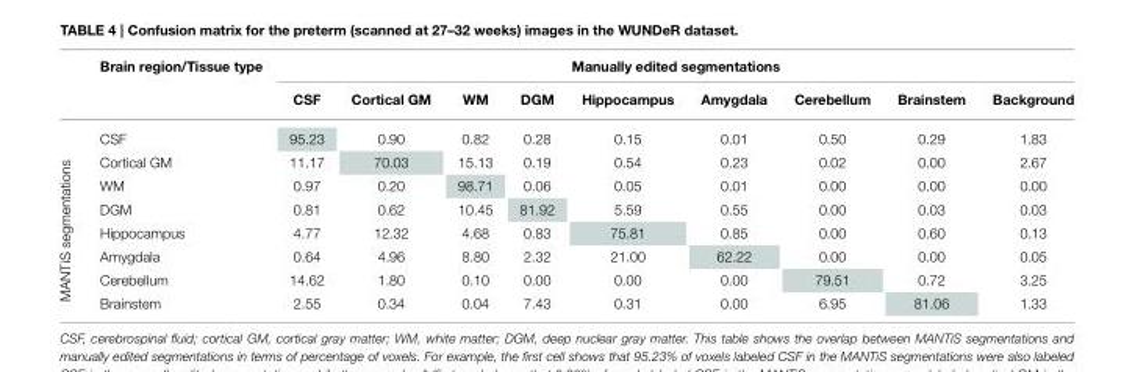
<table><thead><tr><td rowspan="2"></td><td rowspan="2">Brain region/Tissue type</td><td colspan="9">Manually edited segmentations</td></tr><tr><td>CSF</td><td>Cortical GM</td><td>WM</td><td>DGM</td><td>Hippocampus</td><td>Amygdala</td><td>Cerebellum</td><td>Brainstem</td><td>Background</td></tr></thead><tbody><tr><td rowspan="8">MANTiS segmentations</td><td>CSF</td><td>95.23</td><td>0.90</td><td>0.82</td><td>0.28</td><td>0.15</td><td>0.01</td><td>0.50</td><td>0.29</td><td>1.83</td></tr><tr><td>Cortical GM</td><td>11.17</td><td>70.03</td><td>15.13</td><td>0.19</td><td>0.54</td><td>0.23</td><td>0.02</td><td>0.00</td><td>2.67</td></tr><tr><td>WM</td><td>0.97</td><td>0.20</td><td>98.71</td><td>0.06</td><td>0.05</td><td>0.01</td><td>0.00</td><td>0.00</td><td>0.00</td></tr><tr><td>DGM</td><td>0.81</td><td>0.62</td><td>10.45</td><td>81.92</td><td>5.59</td><td>0.55</td><td>0.00</td><td>0.03</td><td>0.03</td></tr><tr><td>Hippocampus</td><td>4.77</td><td>12.32</td><td>4.68</td><td>0.83</td><td>75.81</td><td>0.85</td><td>0.00</td><td>0.60</td><td>0.13</td></tr><tr><td>Amygdala</td><td>0.64</td><td>4.96</td><td>8.80</td><td>2.32</td><td>21.00</td><td>62.22</td><td>0.00</td><td>0.00</td><td>0.05</td></tr><tr><td>Cerebellum</td><td>14.62</td><td>1.80</td><td>0.10</td><td>0.00</td><td>0.00</td><td>0.00</td><td>79.51</td><td>0.72</td><td>3.25</td></tr><tr><td>Brainstem</td><td>2.55</td><td>0.34</td><td>0.04</td><td>7.43</td><td>0.31</td><td>0.00</td><td>6.95</td><td>81.06</td><td>1.33</td></tr></tbody></table>